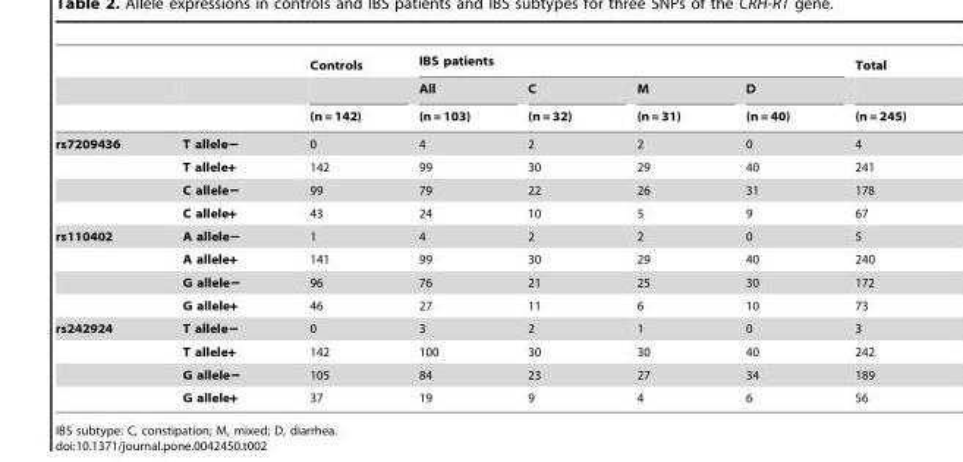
<table><thead><tr><td rowspan="3"></td><td rowspan="3"></td><td rowspan="3">Controls (n = 142)</td><td colspan="4">IBS patients</td><td rowspan="3">Total (n = 245)</td></tr><tr><td rowspan="2">All (n = 103)</td><td rowspan="2">C (n = 32)</td><td rowspan="2">M (n = 31)</td><td rowspan="2">D (n = 40)</td></tr><tr></tr></thead><tbody><tr><td rowspan="4">rs7209436</td><td>T allele−</td><td>0</td><td>4</td><td>2</td><td>2</td><td>0</td><td>4</td></tr><tr><td>T allele+</td><td>142</td><td>99</td><td>30</td><td>29</td><td>40</td><td>241</td></tr><tr><td>C allele−</td><td>99</td><td>79</td><td>22</td><td>26</td><td>31</td><td>178</td></tr><tr><td>C allele+</td><td>43</td><td>24</td><td>10</td><td>5</td><td>9</td><td>67</td></tr><tr><td rowspan="4">rs110402</td><td>A allele−</td><td>1</td><td>4</td><td>2</td><td>2</td><td>0</td><td>5</td></tr><tr><td>A allele+</td><td>141</td><td>99</td><td>30</td><td>29</td><td>40</td><td>240</td></tr><tr><td>G allele−</td><td>96</td><td>76</td><td>21</td><td>25</td><td>30</td><td>172</td></tr><tr><td>G allele+</td><td>46</td><td>27</td><td>11</td><td>6</td><td>10</td><td>73</td></tr><tr><td rowspan="4">rs242924</td><td>T allele−</td><td>0</td><td>3</td><td>2</td><td>1</td><td>0</td><td>3</td></tr><tr><td>T allele+</td><td>142</td><td>100</td><td>30</td><td>30</td><td>40</td><td>242</td></tr><tr><td>G allele−</td><td>105</td><td>84</td><td>23</td><td>27</td><td>34</td><td>189</td></tr><tr><td>G allele+</td><td>37</td><td>19</td><td>9</td><td>4</td><td>6</td><td>56</td></tr></tbody></table>